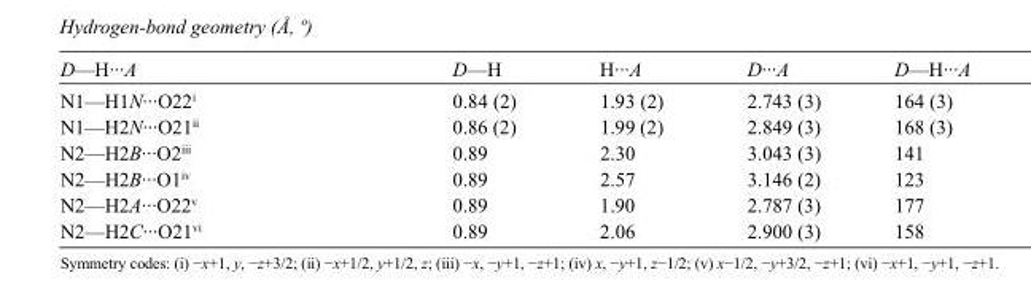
<table><tbody><tr><td>D—H···A</td><td>D—H</td><td>H···A</td><td>D···A</td><td>D—H···A</td></tr><tr><td>N1—H1N···O22<sup>i</sup></td><td>0.84 (2)</td><td>1.93 (2)</td><td>2.743 (3)</td><td>164 (3)</td></tr><tr><td>N1—H2N···O21<sup>ii</sup></td><td>0.86 (2)</td><td>1.99 (2)</td><td>2.849 (3)</td><td>168 (3)</td></tr><tr><td>N2—H2B···O2<sup>iii</sup></td><td>0.89</td><td>2.30</td><td>3.043 (3)</td><td>141</td></tr><tr><td>N2—H2B···O1<sup>iv</sup></td><td>0.89</td><td>2.57</td><td>3.146 (2)</td><td>123</td></tr><tr><td>N2—H2A···O22<sup>v</sup></td><td>0.89</td><td>1.90</td><td>2.787 (3)</td><td>177</td></tr><tr><td>N2—H2C···O21<sup>vi</sup></td><td>0.89</td><td>2.06</td><td>2.900 (3)</td><td>158</td></tr></tbody></table>